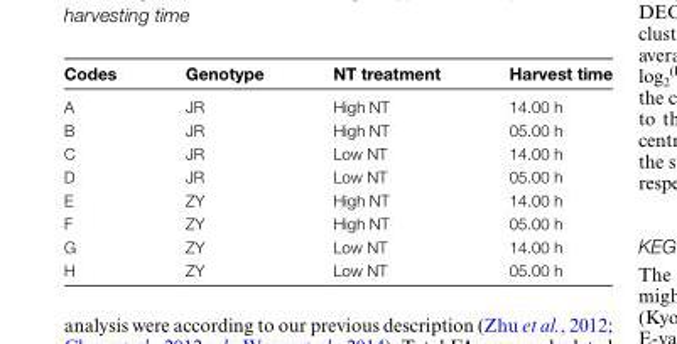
<table><thead><tr><td>Codes</td><td>Genotype</td><td>NT treatment</td><td>Harvest time</td></tr></thead><tbody><tr><td>A</td><td>JR</td><td>High NT</td><td>14.00 h</td></tr><tr><td>B</td><td>JR</td><td>High NT</td><td>05.00 h</td></tr><tr><td>C</td><td>JR</td><td>Low NT</td><td>14.00 h</td></tr><tr><td>D</td><td>JR</td><td>Low NT</td><td>05.00 h</td></tr><tr><td>E</td><td>ZY</td><td>High NT</td><td>14.00 h</td></tr><tr><td>F</td><td>ZY</td><td>High NT</td><td>05.00 h</td></tr><tr><td>G</td><td>ZY</td><td>Low NT</td><td>14.00 h</td></tr><tr><td>H</td><td>ZY</td><td>Low NT</td><td>05.00 h</td></tr></tbody></table>